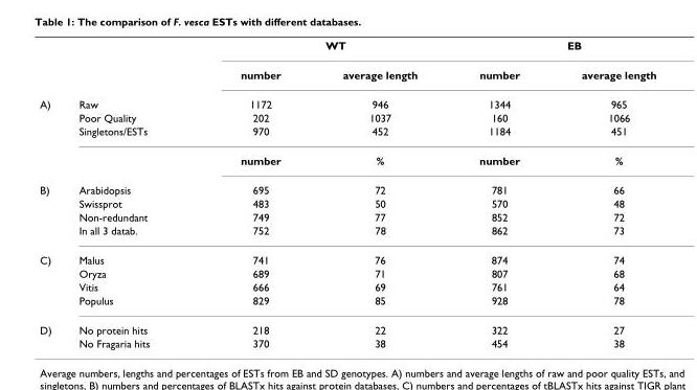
<table><thead><tr><td rowspan="2"></td><td rowspan="2"></td><td colspan="2">WT</td><td colspan="2">EB</td></tr><tr><td>number</td><td>average length</td><td>number</td><td>average length</td></tr></thead><tbody><tr><td rowspan="4">A)</td><td>Raw</td><td>1172</td><td>946</td><td>1344</td><td>965</td></tr><tr><td>Poor Quality</td><td>202</td><td>1037</td><td>160</td><td>1066</td></tr><tr><td>Singletons/ESTs</td><td>970</td><td>452</td><td>1184</td><td>451</td></tr><tr><td></td><td>number</td><td>%</td><td>number</td><td>%</td></tr><tr><td rowspan="4">B)</td><td>Arabidopsis</td><td>695</td><td>72</td><td>781</td><td>66</td></tr><tr><td>Swissprot</td><td>483</td><td>50</td><td>570</td><td>48</td></tr><tr><td>Non-redundant</td><td>749</td><td>77</td><td>852</td><td>72</td></tr><tr><td>In all 3 datab.</td><td>752</td><td>78</td><td>862</td><td>73</td></tr><tr><td rowspan="4">C)</td><td>Malus</td><td>741</td><td>76</td><td>874</td><td>74</td></tr><tr><td>Oryza</td><td>689</td><td>71</td><td>807</td><td>68</td></tr><tr><td>Vitis</td><td>666</td><td>69</td><td>761</td><td>64</td></tr><tr><td>Populus</td><td>829</td><td>85</td><td>928</td><td>78</td></tr><tr><td rowspan="2">D)</td><td>No protein hits</td><td>218</td><td>22</td><td>322</td><td>27</td></tr><tr><td>No Fragaria hits</td><td>370</td><td>38</td><td>454</td><td>38</td></tr></tbody></table>